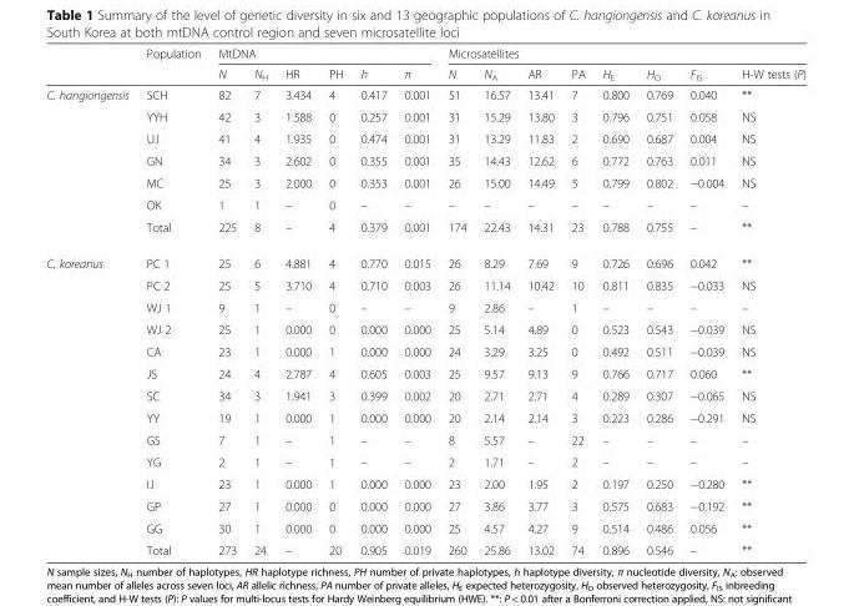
<table><thead><tr><td rowspan="2"></td><td rowspan="2">Population</td><td colspan="6">MtDNA</td><td colspan="8">Microsatellites</td></tr><tr><td>N</td><td>N<sub>H</sub></td><td>HR</td><td>PH</td><td>h</td><td>π</td><td>N</td><td>N<sub>A</sub></td><td>AR</td><td>PA</td><td>H<sub>E</sub></td><td>H<sub>O</sub></td><td>F<sub>IS</sub></td><td>H-W tests (P)</td></tr></thead><tbody><tr><td rowspan="7">C. hangiongensis</td><td>SCH</td><td>82</td><td>7</td><td>3.434</td><td>4</td><td>0.417</td><td>0.001</td><td>51</td><td>16.57</td><td>13.41</td><td>7</td><td>0.800</td><td>0.769</td><td>0.040</td><td>**</td></tr><tr><td>YYH</td><td>42</td><td>3</td><td>1.588</td><td>0</td><td>0.257</td><td>0.001</td><td>31</td><td>15.29</td><td>13.80</td><td>3</td><td>0.796</td><td>0.751</td><td>0.058</td><td>NS</td></tr><tr><td>UJ</td><td>41</td><td>4</td><td>1.935</td><td>0</td><td>0.474</td><td>0.001</td><td>31</td><td>13.29</td><td>11.83</td><td>2</td><td>0.690</td><td>0.687</td><td>0.004</td><td>NS</td></tr><tr><td>GN</td><td>34</td><td>3</td><td>2.602</td><td>0</td><td>0.355</td><td>0.001</td><td>35</td><td>14.43</td><td>12.62</td><td>6</td><td>0.772</td><td>0.763</td><td>0.011</td><td>NS</td></tr><tr><td>MC</td><td>25</td><td>3</td><td>2.000</td><td>0</td><td>0.353</td><td>0.001</td><td>26</td><td>15.00</td><td>14.49</td><td>5</td><td>0.799</td><td>0.802</td><td>−0.004</td><td>NS</td></tr><tr><td>OK</td><td>1</td><td>1</td><td>–</td><td>0</td><td>–</td><td>–</td><td>–</td><td>–</td><td>–</td><td>–</td><td>–</td><td>–</td><td>–</td><td>–</td></tr><tr><td>Total</td><td>225</td><td>8</td><td>–</td><td>4</td><td>0.379</td><td>0.001</td><td>174</td><td>22.43</td><td>14.31</td><td>23</td><td>0.788</td><td>0.755</td><td>–</td><td>**</td></tr><tr><td rowspan="14">C. koreanus</td><td>PC 1</td><td>25</td><td>6</td><td>4.881</td><td>4</td><td>0.770</td><td>0.015</td><td>26</td><td>8.29</td><td>7.69</td><td>9</td><td>0.726</td><td>0.696</td><td>0.042</td><td>**</td></tr><tr><td>PC 2</td><td>25</td><td>5</td><td>3.710</td><td>4</td><td>0.710</td><td>0.003</td><td>26</td><td>11.14</td><td>10.42</td><td>10</td><td>0.811</td><td>0.835</td><td>−0.033</td><td>NS</td></tr><tr><td>WJ 1</td><td>9</td><td>1</td><td>–</td><td>0</td><td>–</td><td>–</td><td>9</td><td>2.86</td><td>–</td><td>1</td><td>–</td><td>–</td><td>–</td><td>–</td></tr><tr><td>WJ 2</td><td>25</td><td>1</td><td>0.000</td><td>0</td><td>0.000</td><td>0.000</td><td>25</td><td>5.14</td><td>4.89</td><td>0</td><td>0.523</td><td>0.543</td><td>−0.039</td><td>NS</td></tr><tr><td>CA</td><td>23</td><td>1</td><td>0.000</td><td>1</td><td>0.000</td><td>0.000</td><td>24</td><td>3.29</td><td>3.25</td><td>0</td><td>0.492</td><td>0.511</td><td>−0.039</td><td>NS</td></tr><tr><td>JS</td><td>24</td><td>4</td><td>2.787</td><td>4</td><td>0.605</td><td>0.003</td><td>25</td><td>9.57</td><td>9.13</td><td>9</td><td>0.766</td><td>0.717</td><td>0.060</td><td>**</td></tr><tr><td>SC</td><td>34</td><td>3</td><td>1.941</td><td>3</td><td>0.399</td><td>0.002</td><td>20</td><td>2.71</td><td>2.71</td><td>4</td><td>0.289</td><td>0.307</td><td>−0.065</td><td>NS</td></tr><tr><td>YY</td><td>19</td><td>1</td><td>0.000</td><td>1</td><td>0.000</td><td>0.000</td><td>20</td><td>2.14</td><td>2.14</td><td>3</td><td>0.223</td><td>0.286</td><td>−0.291</td><td>NS</td></tr><tr><td>GS</td><td>7</td><td>1</td><td>–</td><td>1</td><td>–</td><td>–</td><td>8</td><td>5.57</td><td>–</td><td>22</td><td>–</td><td>–</td><td>–</td><td>–</td></tr><tr><td>YG</td><td>2</td><td>1</td><td>–</td><td>1</td><td>–</td><td>–</td><td>2</td><td>1.71</td><td>–</td><td>2</td><td>–</td><td>–</td><td>–</td><td>–</td></tr><tr><td>IJ</td><td>23</td><td>1</td><td>0.000</td><td>1</td><td>0.000</td><td>0.000</td><td>23</td><td>2.00</td><td>1.95</td><td>2</td><td>0.197</td><td>0.250</td><td>−0.280</td><td>**</td></tr><tr><td>GP</td><td>27</td><td>1</td><td>0.000</td><td>0</td><td>0.000</td><td>0.000</td><td>27</td><td>3.86</td><td>3.77</td><td>3</td><td>0.575</td><td>0.683</td><td>−0.192</td><td>**</td></tr><tr><td>GG</td><td>30</td><td>1</td><td>0.000</td><td>0</td><td>0.000</td><td>0.000</td><td>25</td><td>4.57</td><td>4.27</td><td>9</td><td>0.514</td><td>0.486</td><td>0.056</td><td>**</td></tr><tr><td>Total</td><td>273</td><td>24</td><td>–</td><td>20</td><td>0.905</td><td>0.019</td><td>260</td><td>25.86</td><td>13.02</td><td>74</td><td>0.896</td><td>0.546</td><td>–</td><td>**</td></tr></tbody></table>